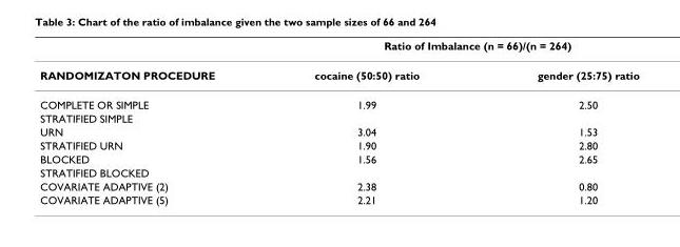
<table><thead><tr><td rowspan="2">RANDOMIZATON PROCEDURE</td><td colspan="2">Ratio of Imbalance (n = 66)/(n = 264)</td></tr><tr><td>cocaine (50:50) ratio</td><td>gender (25:75) ratio</td></tr></thead><tbody><tr><td>COMPLETE OR SIMPLE</td><td>1.99</td><td>2.50</td></tr><tr><td colspan="3">STRATIFIED SIMPLE</td></tr><tr><td>URN</td><td>3.04</td><td>1.53</td></tr><tr><td>STRATIFIED URN</td><td>1.90</td><td>2.80</td></tr><tr><td>BLOCKED</td><td>1.56</td><td>2.65</td></tr><tr><td colspan="3">STRATIFIED BLOCKED</td></tr><tr><td>COVARIATE ADAPTIVE (2)</td><td>2.38</td><td>0.80</td></tr><tr><td>COVARIATE ADAPTIVE (5)</td><td>2.21</td><td>1.20</td></tr></tbody></table>